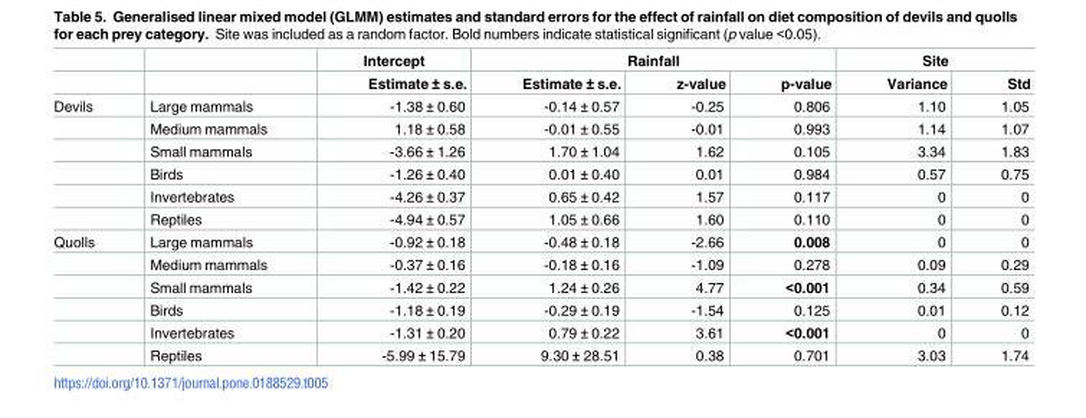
<table><thead><tr><td rowspan="2"></td><td rowspan="2"></td><td rowspan="2">Intercept Estimate ± s.e.</td><td colspan="3">Rainfall</td><td colspan="2">Site</td></tr><tr><td>Estimate ± s.e.</td><td>z-value</td><td>p-value</td><td>Variance</td><td>Std</td></tr></thead><tbody><tr><td rowspan="6">Devils</td><td>Large mammals</td><td>-1.38 ± 0.60</td><td>-0.14 ± 0.57</td><td>-0.25</td><td>0.806</td><td>1.10</td><td>1.05</td></tr><tr><td>Medium mammals</td><td>1.18 ± 0.58</td><td>-0.01 ± 0.55</td><td>-0.01</td><td>0.993</td><td>1.14</td><td>1.07</td></tr><tr><td>Small mammals</td><td>-3.66 ± 1.26</td><td>1.70 ± 1.04</td><td>1.62</td><td>0.105</td><td>3.34</td><td>1.83</td></tr><tr><td>Birds</td><td>-1.26 ± 0.40</td><td>0.01 ± 0.40</td><td>0.01</td><td>0.984</td><td>0.57</td><td>0.75</td></tr><tr><td>Invertebrates</td><td>-4.26 ± 0.37</td><td>0.65 ± 0.42</td><td>1.57</td><td>0.117</td><td>0</td><td>0</td></tr><tr><td>Reptiles</td><td>-4.94 ± 0.57</td><td>1.05 ± 0.66</td><td>1.60</td><td>0.110</td><td>0</td><td>0</td></tr><tr><td rowspan="6">Quolls</td><td>Large mammals</td><td>-0.92 ± 0.18</td><td>-0.48 ± 0.18</td><td>-2.66</td><td>0.008</td><td>0</td><td>0</td></tr><tr><td>Medium mammals</td><td>-0.37 ± 0.16</td><td>-0.18 ± 0.16</td><td>-1.09</td><td>0.278</td><td>0.09</td><td>0.29</td></tr><tr><td>Small mammals</td><td>-1.42 ± 0.22</td><td>1.24 ± 0.26</td><td>4.77</td><td>&lt;0.001</td><td>0.34</td><td>0.59</td></tr><tr><td>Birds</td><td>-1.18 ± 0.19</td><td>-0.29 ± 0.19</td><td>-1.54</td><td>0.125</td><td>0.01</td><td>0.12</td></tr><tr><td>Invertebrates</td><td>-1.31 ± 0.20</td><td>0.79 ± 0.22</td><td>3.61</td><td>&lt;0.001</td><td>0</td><td>0</td></tr><tr><td>Reptiles</td><td>-5.99 ± 15.79</td><td>9.30 ± 28.51</td><td>0.38</td><td>0.701</td><td>3.03</td><td>1.74</td></tr></tbody></table>